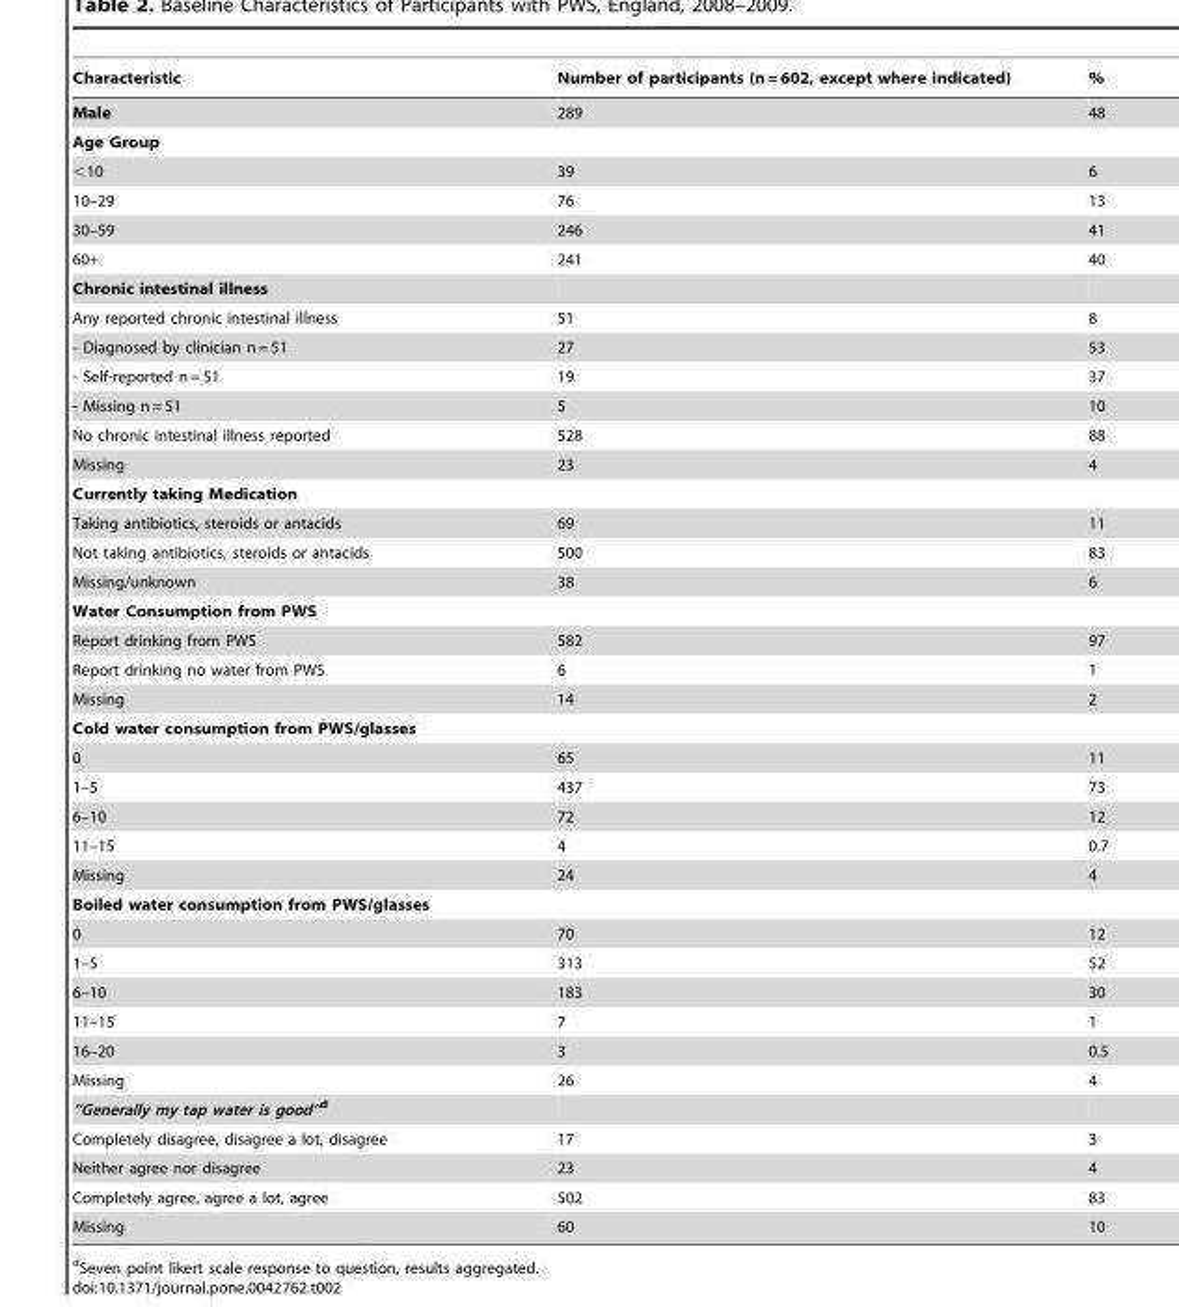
<table><thead><tr><td>Characteristic</td><td>Number of participants (n = 602, except where indicated)</td><td>%</td></tr></thead><tbody><tr><td>Male</td><td>289</td><td>48</td></tr><tr><td colspan="3">Age Group</td></tr><tr><td>&lt;10</td><td>39</td><td>6</td></tr><tr><td>10–29</td><td>76</td><td>13</td></tr><tr><td>30–59</td><td>246</td><td>41</td></tr><tr><td>60+</td><td>241</td><td>40</td></tr><tr><td colspan="3">Chronic intestinal illness</td></tr><tr><td>Any reported chronic intestinal illness</td><td>51</td><td>8</td></tr><tr><td>- Diagnosed by clinician n = 51</td><td>27</td><td>53</td></tr><tr><td>- Self-reported n = 51</td><td>19</td><td>37</td></tr><tr><td>- Missing n = 51</td><td>5</td><td>10</td></tr><tr><td>No chronic intestinal illness reported</td><td>528</td><td>88</td></tr><tr><td>Missing</td><td>23</td><td>4</td></tr><tr><td colspan="3">Currently taking Medication</td></tr><tr><td>Taking antibiotics, steroids or antacids</td><td>69</td><td>11</td></tr><tr><td>Not taking antibiotics, steroids or antacids</td><td>500</td><td>83</td></tr><tr><td>Missing/unknown</td><td>38</td><td>6</td></tr><tr><td colspan="3">Water Consumption from PWS</td></tr><tr><td>Report drinking from PWS</td><td>582</td><td>97</td></tr><tr><td>Report drinking no water from PWS</td><td>6</td><td>1</td></tr><tr><td>Missing</td><td>14</td><td>2</td></tr><tr><td colspan="3">Cold water consumption from PWS/glasses</td></tr><tr><td>0</td><td>65</td><td>11</td></tr><tr><td>1–5</td><td>437</td><td>73</td></tr><tr><td>6–10</td><td>72</td><td>12</td></tr><tr><td>11–15</td><td>4</td><td>0.7</td></tr><tr><td>Missing</td><td>24</td><td>4</td></tr><tr><td colspan="3">Boiled water consumption from PWS/glasses</td></tr><tr><td>0</td><td>70</td><td>12</td></tr><tr><td>1–5</td><td>313</td><td>52</td></tr><tr><td>6–10</td><td>183</td><td>30</td></tr><tr><td>11–15</td><td>7</td><td>1</td></tr><tr><td>16–20</td><td>3</td><td>0.5</td></tr><tr><td>Missing</td><td>26</td><td>4</td></tr><tr><td colspan="3">‘‘Generally my tap water is good’’d</td></tr><tr><td>Completely disagree, disagree a lot, disagree</td><td>17</td><td>3</td></tr><tr><td>Neither agree nor disagree</td><td>23</td><td>4</td></tr><tr><td>Completely agree, agree a lot, agree</td><td>502</td><td>83</td></tr><tr><td>Missing</td><td>60</td><td>10</td></tr></tbody></table>